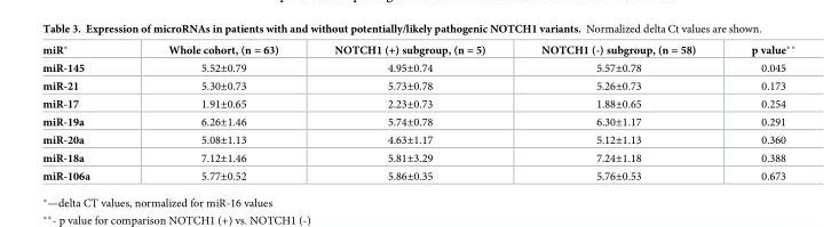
<table><thead><tr><td>miR*</td><td>Whole cohort, (n = 63)</td><td>NOTCH1 (+) subgroup, (n = 5)</td><td>NOTCH1 (-) subgroup, (n = 58)</td><td>p value**</td></tr></thead><tbody><tr><td>miR-145</td><td>5.52±0.79</td><td>4.95±0.74</td><td>5.57±0.78</td><td>0.045</td></tr><tr><td>miR-21</td><td>5.30±0.73</td><td>5.73±0.78</td><td>5.26±0.73</td><td>0.173</td></tr><tr><td>miR-17</td><td>1.91±0.65</td><td>2.23±0.73</td><td>1.88±0.65</td><td>0.254</td></tr><tr><td>miR-19a</td><td>6.26±1.46</td><td>5.74±0.78</td><td>6.30±1.17</td><td>0.291</td></tr><tr><td>miR-20a</td><td>5.08±1.13</td><td>4.63±1.17</td><td>5.12±1.13</td><td>0.360</td></tr><tr><td>miR-18a</td><td>7.12±1.46</td><td>5.81±3.29</td><td>7.24±1.18</td><td>0.388</td></tr><tr><td>miR-106a</td><td>5.77±0.52</td><td>5.86±0.35</td><td>5.76±0.53</td><td>0.673</td></tr></tbody></table>